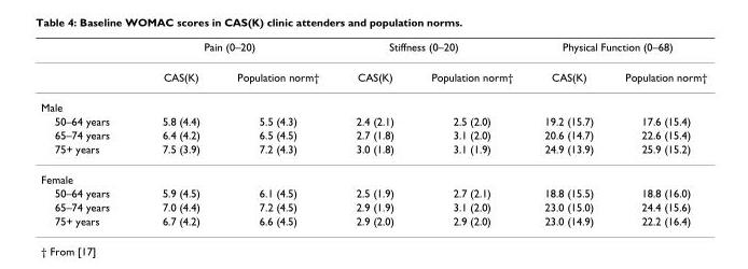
<table><thead><tr><td rowspan="2"></td><td colspan="2">Pain (0–20)</td><td colspan="2">Stiffness (0–20)</td><td colspan="2">Physical Function (0–68)</td></tr><tr><td>CAS(K)</td><td>Population norm†</td><td>CAS(K)</td><td>Population norm†</td><td>CAS(K)</td><td>Population norm†</td></tr></thead><tbody><tr><td colspan="7">Male</td></tr><tr><td>50–64 years</td><td>5.8 (4.4)</td><td>5.5 (4.3)</td><td>2.4 (2.1)</td><td>2.5 (2.0)</td><td>19.2 (15.7)</td><td>17.6 (15.4)</td></tr><tr><td>65–74 years</td><td>6.4 (4.2)</td><td>6.5 (4.5)</td><td>2.7 (1.8)</td><td>3.1 (2.0)</td><td>20.6 (14.7)</td><td>22.6 (15.4)</td></tr><tr><td>75+ years</td><td>7.5 (3.9)</td><td>7.2 (4.3)</td><td>3.0 (1.8)</td><td>3.1 (1.9)</td><td>24.9 (13.9)</td><td>25.9 (15.2)</td></tr><tr><td colspan="7">Female</td></tr><tr><td>50–64 years</td><td>5.9 (4.5)</td><td>6.1 (4.5)</td><td>2.5 (1.9)</td><td>2.7 (2.1)</td><td>18.8 (15.5)</td><td>18.8 (16.0)</td></tr><tr><td>65–74 years</td><td>7.0 (4.4)</td><td>7.2 (4.5)</td><td>2.9 (1.9)</td><td>3.1 (2.0)</td><td>23.0 (15.0)</td><td>24.4 (15.6)</td></tr><tr><td>75+ years</td><td>6.7 (4.2)</td><td>6.6 (4.5)</td><td>2.9 (2.0)</td><td>2.9 (2.0)</td><td>23.0 (14.9)</td><td>22.2 (16.4)</td></tr></tbody></table>